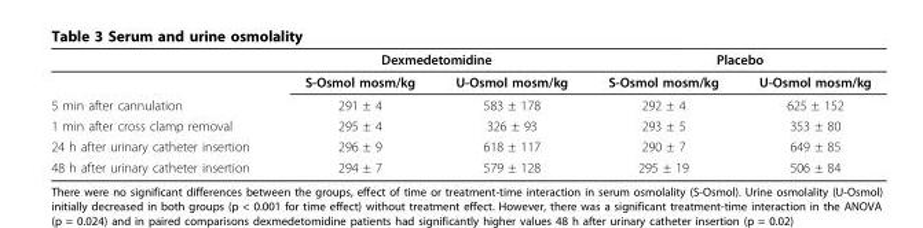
<table><thead><tr><td rowspan="2"></td><td colspan="2">Dexmedetomidine</td><td colspan="2">Placebo</td></tr><tr><td>S-Osmol mosm/kg</td><td>U-Osmol mosm/kg</td><td>S-Osmol mosm/kg</td><td>U-Osmol mosm/kg</td></tr></thead><tbody><tr><td>5 min after cannulation</td><td>291 ± 4</td><td>583 ± 178</td><td>292 ± 4</td><td>625 ± 152</td></tr><tr><td>1 min after cross clamp removal</td><td>295 ± 4</td><td>326 ± 93</td><td>293 ± 5</td><td>353 ± 80</td></tr><tr><td>24 h after urinary catheter insertion</td><td>296 ± 9</td><td>618 ± 117</td><td>290 ± 7</td><td>649 ± 85</td></tr><tr><td>48 h after urinary catheter insertion</td><td>294 ± 7</td><td>579 ± 128</td><td>295 ± 19</td><td>506 ± 84</td></tr></tbody></table>